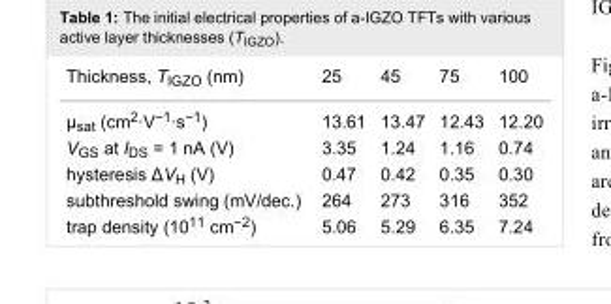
<table><tbody><tr><td>Thickness, T<sub>IGZO</sub> (nm)</td><td>25</td><td>45</td><td>75</td><td>100</td></tr><tr><td>μ<sub>sat</sub> (cm<sup>2</sup>∙V<sup>−1</sup>∙s<sup>−1</sup>)</td><td>13.61</td><td>13.47</td><td>12.43</td><td>12.20</td></tr><tr><td>V<sub>GS</sub> at I<sub>DS</sub> = 1 nA (V)</td><td>3.35</td><td>1.24</td><td>1.16</td><td>0.74</td></tr><tr><td>hysteresis ΔV<sub>H</sub> (V)</td><td>0.47</td><td>0.42</td><td>0.35</td><td>0.30</td></tr><tr><td>subthreshold swing (mV/dec.)</td><td>264</td><td>273</td><td>316</td><td>352</td></tr><tr><td>trap density (10<sup>11</sup> cm<sup>−2</sup>)</td><td>5.06</td><td>5.29</td><td>6.35</td><td>7.24</td></tr></tbody></table>